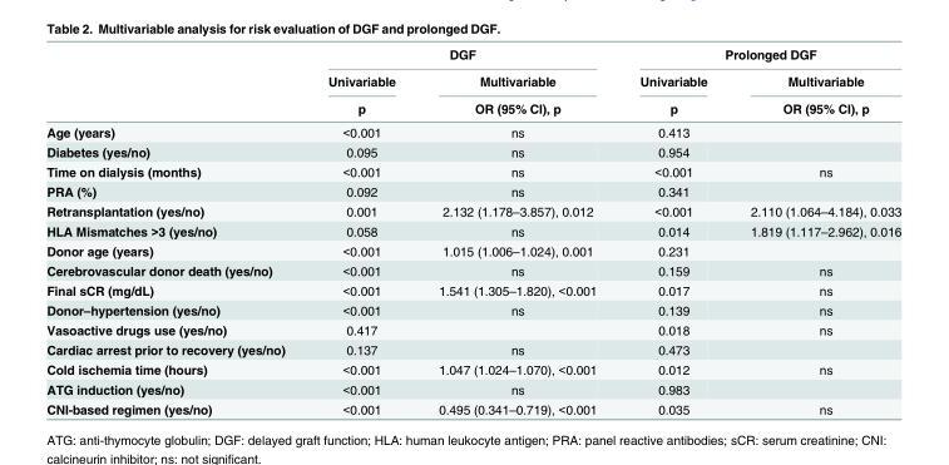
<table><thead><tr><td rowspan="3"></td><td colspan="2">DGF</td><td colspan="2">Prolonged DGF</td></tr><tr><td rowspan="2">Univariable p</td><td rowspan="2">Multivariable OR (95% CI), p</td><td rowspan="2">Univariable p</td><td rowspan="2">Multivariable OR (95% CI), p</td></tr><tr></tr></thead><tbody><tr><td>Age (years)</td><td>&lt;0.001</td><td>ns</td><td>0.413</td><td></td></tr><tr><td>Diabetes (yes/no)</td><td>0.095</td><td>ns</td><td>0.954</td><td></td></tr><tr><td>Time on dialysis (months)</td><td>&lt;0.001</td><td>ns</td><td>&lt;0.001</td><td>ns</td></tr><tr><td>PRA (%)</td><td>0.092</td><td>ns</td><td>0.341</td><td></td></tr><tr><td>Retransplantation (yes/no)</td><td>0.001</td><td>2.132 (1.178–3.857), 0.012</td><td>&lt;0.001</td><td>2.110 (1.064–4.184), 0.033</td></tr><tr><td>HLA Mismatches &gt;3 (yes/no)</td><td>0.058</td><td>ns</td><td>0.014</td><td>1.819 (1.117–2.962), 0.016</td></tr><tr><td>Donor age (years)</td><td>&lt;0.001</td><td>1.015 (1.006–1.024), 0.001</td><td>0.231</td><td></td></tr><tr><td>Cerebrovascular donor death (yes/no)</td><td>&lt;0.001</td><td>ns</td><td>0.159</td><td>ns</td></tr><tr><td>Final sCR (mg/dL)</td><td>&lt;0.001</td><td>1.541 (1.305–1.820), &lt;0.001</td><td>0.017</td><td>ns</td></tr><tr><td>Donor–hypertension (yes/no)</td><td>&lt;0.001</td><td>ns</td><td>0.139</td><td>ns</td></tr><tr><td>Vasoactive drugs use (yes/no)</td><td>0.417</td><td></td><td>0.018</td><td>ns</td></tr><tr><td>Cardiac arrest prior to recovery (yes/no)</td><td>0.137</td><td>ns</td><td>0.473</td><td></td></tr><tr><td>Cold ischemia time (hours)</td><td>&lt;0.001</td><td>1.047 (1.024–1.070), &lt;0.001</td><td>0.012</td><td>ns</td></tr><tr><td>ATG induction (yes/no)</td><td>&lt;0.001</td><td>ns</td><td>0.983</td><td></td></tr><tr><td>CNI-based regimen (yes/no)</td><td>&lt;0.001</td><td>0.495 (0.341–0.719), &lt;0.001</td><td>0.035</td><td>ns</td></tr></tbody></table>